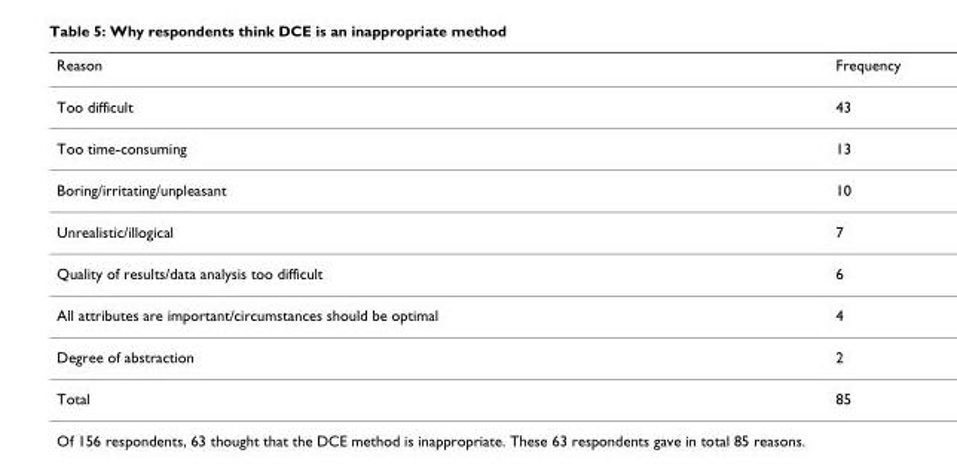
<table><thead><tr><td>Reason</td><td>Frequency</td></tr></thead><tbody><tr><td>Too difficult</td><td>43</td></tr><tr><td>Too time-consuming</td><td>13</td></tr><tr><td>Boring/irritating/unpleasant</td><td>10</td></tr><tr><td>Unrealistic/illogical</td><td>7</td></tr><tr><td>Quality of results/data analysis too difficult</td><td>6</td></tr><tr><td>All attributes are important/circumstances should be optimal</td><td>4</td></tr><tr><td>Degree of abstraction</td><td>2</td></tr><tr><td>Total</td><td>85</td></tr></tbody></table>